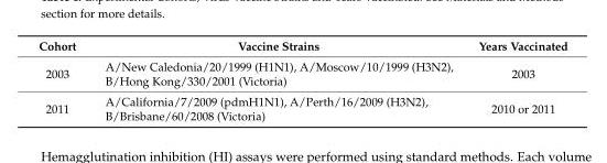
<table><thead><tr><td>Cohort</td><td>Vaccine Strains</td><td>Years Vaccinated</td></tr></thead><tbody><tr><td>2003</td><td>A/New Caledonia/20/1999 (H1N1), A/Moscow/10/1999 (H3N2), B/Hong Kong/330/2001 (Victoria)</td><td>2003</td></tr><tr><td>2011</td><td>A/California/7/2009 (pdmH1N1), A/Perth/16/2009 (H3N2), B/Brisbane/60/2008 (Victoria)</td><td>2010 or 2011</td></tr></tbody></table>